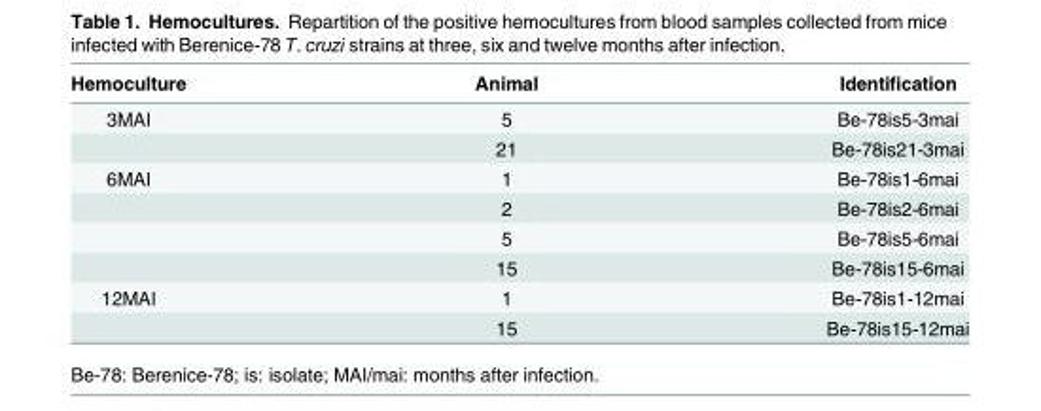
<table><thead><tr><td>Hemoculture</td><td>Animal</td><td>Identification</td></tr></thead><tbody><tr><td rowspan="2">3MAI</td><td>5</td><td>Be-78is5-3mai</td></tr><tr><td>21</td><td>Be-78is21-3mai</td></tr><tr><td rowspan="4">6MAI</td><td>1</td><td>Be-78is1-6mai</td></tr><tr><td>2</td><td>Be-78is2-6mai</td></tr><tr><td>5</td><td>Be-78is5-6mai</td></tr><tr><td>15</td><td>Be-78is15-6mai</td></tr><tr><td rowspan="2">12MAI</td><td>1</td><td>Be-78is1-12mai</td></tr><tr><td>15</td><td>Be-78is15-12mai</td></tr></tbody></table>